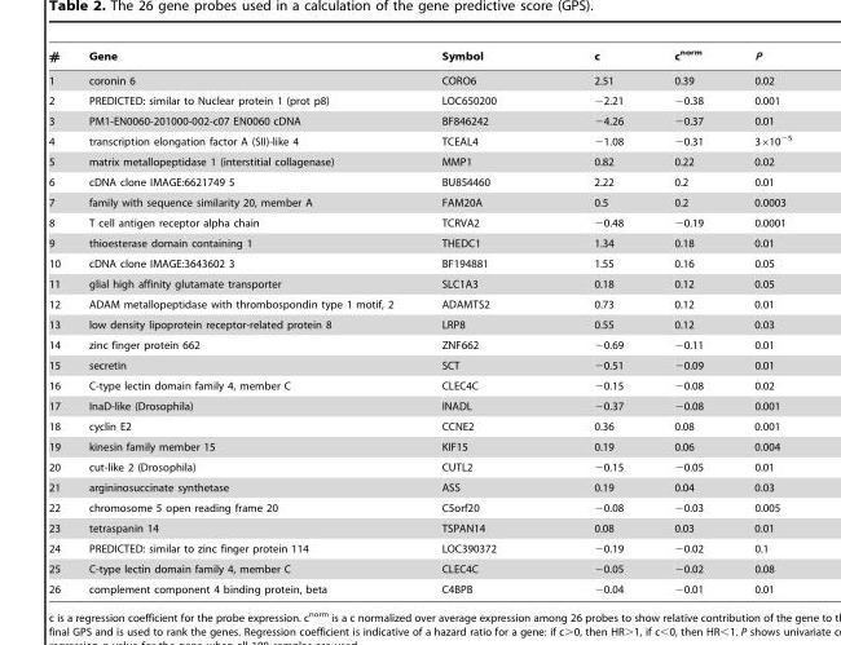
<table><thead><tr><td>#</td><td>Gene</td><td>Symbol</td><td>c</td><td>c<sup>norm</sup></td><td>P</td></tr></thead><tbody><tr><td>1</td><td>coronin 6</td><td>CORO6</td><td>2.51</td><td>0.39</td><td>0.02</td></tr><tr><td>2</td><td>PREDICTED: similar to Nuclear protein 1 (prot p8)</td><td>LOC650200</td><td>−2.21</td><td>−0.38</td><td>0.001</td></tr><tr><td>3</td><td>PM1-EN0060-201000-002-c07 EN0060 cDNA</td><td>BF846242</td><td>−4.26</td><td>−0.37</td><td>0.01</td></tr><tr><td>4</td><td>transcription elongation factor A (SII)-like 4</td><td>TCEAL4</td><td>−1.08</td><td>−0.31</td><td>3×10<sup>−5</sup></td></tr><tr><td>5</td><td>matrix metallopeptidase 1 (interstitial collagenase)</td><td>MMP1</td><td>0.82</td><td>0.22</td><td>0.02</td></tr><tr><td>6</td><td>cDNA clone IMAGE:6621749 5</td><td>BU854460</td><td>2.22</td><td>0.2</td><td>0.01</td></tr><tr><td>7</td><td>family with sequence similarity 20, member A</td><td>FAM20A</td><td>0.5</td><td>0.2</td><td>0.0003</td></tr><tr><td>8</td><td>T cell antigen receptor alpha chain</td><td>TCRVA2</td><td>−0.48</td><td>−0.19</td><td>0.0001</td></tr><tr><td>9</td><td>thioesterase domain containing 1</td><td>THEDC1</td><td>1.34</td><td>0.18</td><td>0.01</td></tr><tr><td>10</td><td>cDNA clone IMAGE:3643602 3</td><td>BF194881</td><td>1.55</td><td>0.16</td><td>0.05</td></tr><tr><td>11</td><td>glial high affinity glutamate transporter</td><td>SLC1A3</td><td>0.18</td><td>0.12</td><td>0.05</td></tr><tr><td>12</td><td>ADAM metallopeptidase with thrombospondin type 1 motif, 2</td><td>ADAMTS2</td><td>0.73</td><td>0.12</td><td>0.01</td></tr><tr><td>13</td><td>low density lipoprotein receptor-related protein 8</td><td>LRP8</td><td>0.55</td><td>0.12</td><td>0.03</td></tr><tr><td>14</td><td>zinc finger protein 662</td><td>ZNF662</td><td>−0.69</td><td>−0.11</td><td>0.01</td></tr><tr><td>15</td><td>secretin</td><td>SCT</td><td>−0.51</td><td>−0.09</td><td>0.01</td></tr><tr><td>16</td><td>C-type lectin domain family 4, member C</td><td>CLEC4C</td><td>−0.15</td><td>−0.08</td><td>0.02</td></tr><tr><td>17</td><td>InaD-like (Drosophila)</td><td>INADL</td><td>−0.37</td><td>−0.08</td><td>0.001</td></tr><tr><td>18</td><td>cyclin E2</td><td>CCNE2</td><td>0.36</td><td>0.08</td><td>0.001</td></tr><tr><td>19</td><td>kinesin family member 15</td><td>KIF15</td><td>0.19</td><td>0.06</td><td>0.004</td></tr><tr><td>20</td><td>cut-like 2 (Drosophila)</td><td>CUTL2</td><td>−0.15</td><td>−0.05</td><td>0.01</td></tr><tr><td>21</td><td>argininosuccinate synthetase</td><td>ASS</td><td>0.19</td><td>0.04</td><td>0.03</td></tr><tr><td>22</td><td>chromosome 5 open reading frame 20</td><td>C5orf20</td><td>−0.08</td><td>−0.03</td><td>0.005</td></tr><tr><td>23</td><td>tetraspanin 14</td><td>TSPAN14</td><td>0.08</td><td>0.03</td><td>0.01</td></tr><tr><td>24</td><td>PREDICTED: similar to zinc finger protein 114</td><td>LOC390372</td><td>−0.19</td><td>−0.02</td><td>0.1</td></tr><tr><td>25</td><td>C-type lectin domain family 4, member C</td><td>CLEC4C</td><td>−0.05</td><td>−0.02</td><td>0.08</td></tr><tr><td>26</td><td>complement component 4 binding protein, beta</td><td>C4BPB</td><td>−0.04</td><td>−0.01</td><td>0.01</td></tr></tbody></table>